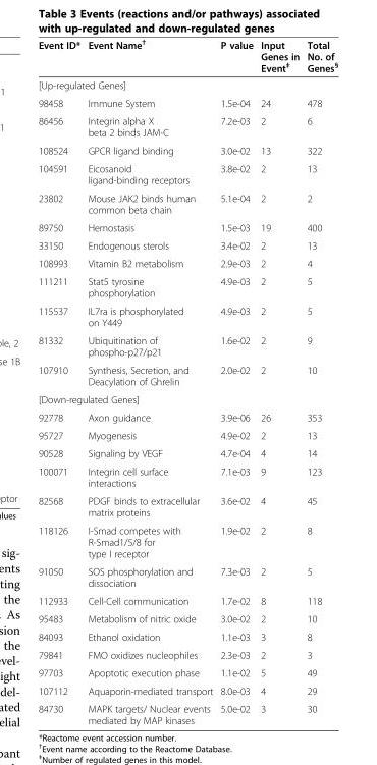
<table><thead><tr><td>Event ID*</td><td>Event Name<sup>†</sup></td><td>P value</td><td>Input Genes in Event<sup>‡</sup></td><td>Total No. of Genes<sup>§</sup></td></tr></thead><tbody><tr><td colspan="5">[Up-regulated Genes]</td></tr><tr><td>98458</td><td>Immune System</td><td>1.5e-04</td><td>24</td><td>478</td></tr><tr><td>86456</td><td>Integrin alpha X beta 2 binds JAM-C</td><td>7.2e-03</td><td>2</td><td>6</td></tr><tr><td>108524</td><td>GPCR ligand binding</td><td>3.0e-02</td><td>13</td><td>322</td></tr><tr><td>104591</td><td>Eicosanoid ligand-binding receptors</td><td>3.8e-02</td><td>2</td><td>13</td></tr><tr><td>23802</td><td>Mouse JAK2 binds human common beta chain</td><td>5.1e-04</td><td>2</td><td>2</td></tr><tr><td>89750</td><td>Hemostasis</td><td>1.5e-03</td><td>19</td><td>400</td></tr><tr><td>33150</td><td>Endogenous sterols</td><td>3.4e-02</td><td>2</td><td>13</td></tr><tr><td>108993</td><td>Vitamin B2 metabolism</td><td>2.9e-03</td><td>2</td><td>4</td></tr><tr><td>111211</td><td>Stat5 tyrosine phosphorylation</td><td>4.9e-03</td><td>2</td><td>5</td></tr><tr><td>115537</td><td>IL7ra is phosphorylated on Y449</td><td>4.9e-03</td><td>2</td><td>5</td></tr><tr><td>81332</td><td>Ubiquitination of phospho-p27/p21</td><td>1.6e-02</td><td>2</td><td>9</td></tr><tr><td>107910</td><td>Synthesis, Secretion, and Deacylation of Ghrelin</td><td>2.0e-02</td><td>2</td><td>10</td></tr><tr><td colspan="5">[Down-regulated Genes]</td></tr><tr><td>92778</td><td>Axon guidance</td><td>3.9e-06</td><td>26</td><td>353</td></tr><tr><td>95727</td><td>Myogenesis</td><td>4.9e-02</td><td>2</td><td>13</td></tr><tr><td>90528</td><td>Signaling by VEGF</td><td>4.7e-04</td><td>4</td><td>14</td></tr><tr><td>100071</td><td>Integrin cell surface interactions</td><td>7.1e-03</td><td>9</td><td>123</td></tr><tr><td>82568</td><td>PDGF binds to extracellular matrix proteins</td><td>3.6e-02</td><td>4</td><td>45</td></tr><tr><td>118126</td><td>I-Smad competes with R-Smad1/5/8 for type I receptor</td><td>1.9e-02</td><td>2</td><td>8</td></tr><tr><td>91050</td><td>SOS phosphorylation and dissociation</td><td>7.3e-03</td><td>2</td><td>5</td></tr><tr><td>112933</td><td>Cell-Cell communication</td><td>1.7e-02</td><td>8</td><td>118</td></tr><tr><td>95483</td><td>Metabolism of nitric oxide</td><td>3.0e-02</td><td>2</td><td>10</td></tr><tr><td>84093</td><td>Ethanol oxidation</td><td>1.1e-03</td><td>3</td><td>8</td></tr><tr><td>79841</td><td>FMO oxidizes nucleophiles</td><td>2.3e-03</td><td>2</td><td>3</td></tr><tr><td>97703</td><td>Apoptotic execution phase</td><td>1.1e-02</td><td>5</td><td>49</td></tr><tr><td>107112</td><td>Aquaporin-mediated transport</td><td>8.0e-03</td><td>4</td><td>29</td></tr><tr><td>84730</td><td>MAPK targets/ Nuclear events mediated by MAP kinases</td><td>5.0e-02</td><td>3</td><td>30</td></tr></tbody></table>